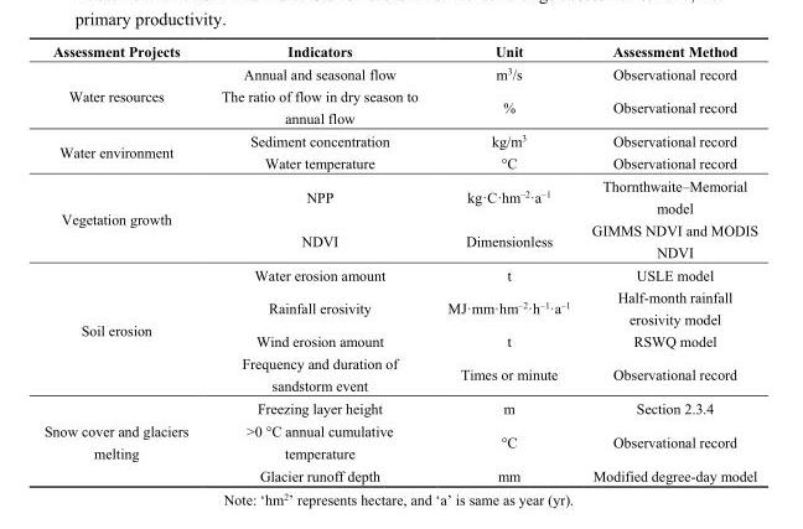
<table><thead><tr><td>Assessment Projects</td><td>Indicators</td><td>Unit</td><td>Assessment Method</td></tr></thead><tbody><tr><td rowspan="2">Water resources</td><td>Annual and seasonal flow</td><td>m<sup>3</sup>/s</td><td>Observational record</td></tr><tr><td>The ratio of flow in dry season to annual flow</td><td>%</td><td>Observational record</td></tr><tr><td rowspan="2">Water environment</td><td>Sediment concentration</td><td>kg/m<sup>3</sup></td><td>Observational record</td></tr><tr><td>Water temperature</td><td>°C</td><td>Observational record</td></tr><tr><td rowspan="2">Vegetation growth</td><td>NPP</td><td>kg·C·hm<sup>–2</sup>·a<sup>–1</sup></td><td>Thornthwaite–Memorial model</td></tr><tr><td>NDVI</td><td>Dimensionless</td><td>GIMMS NDVI and MODIS NDVI</td></tr><tr><td rowspan="4">Soil erosion</td><td>Water erosion amount</td><td>t</td><td>USLE model</td></tr><tr><td>Rainfall erosivity</td><td>MJ·mm·hm<sup>–2</sup>·h<sup>–1</sup>·a<sup>–1</sup></td><td>Half-month rainfall erosivity model</td></tr><tr><td>Wind erosion amount</td><td>t</td><td>RSWQ model</td></tr><tr><td>Frequency and duration of sandstorm event</td><td>Times or minute</td><td>Observational record</td></tr><tr><td rowspan="3">Snow cover and glaciers melting</td><td>Freezing layer height</td><td>m</td><td>Section 2.3.4</td></tr><tr><td>&gt;0 °C annual cumulative temperature</td><td>°C</td><td>Observational record</td></tr><tr><td>Glacier runoff depth</td><td>mm</td><td>Modified degree-day model</td></tr></tbody></table>